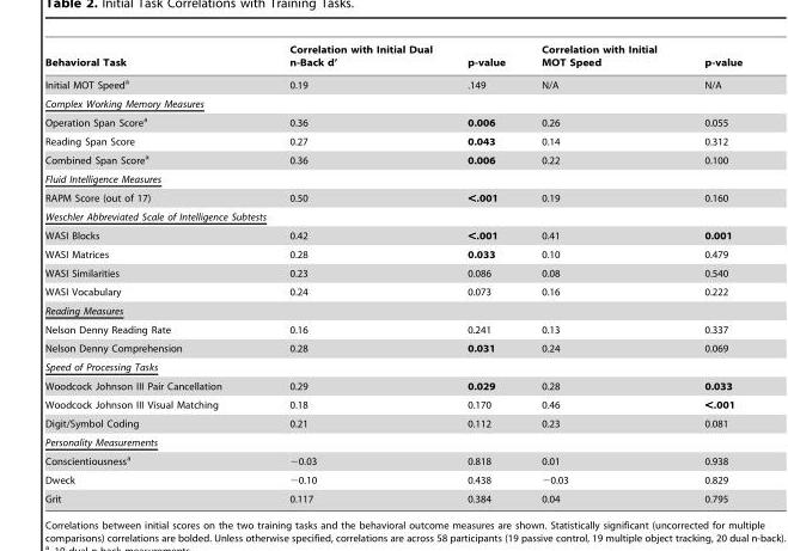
<table><thead><tr><td>Behavioral Task</td><td>Correlation with Initial Dual n-Back d’</td><td>p-value</td><td>Correlation with Initial MOT Speed</td><td>p-value</td></tr></thead><tbody><tr><td>Initial MOT Speed<sup>a</sup></td><td>0.19</td><td>.149</td><td>N/A</td><td>N/A</td></tr><tr><td colspan="5">Complex Working Memory Measures</td></tr><tr><td>Operation Span Score<sup>a</sup></td><td>0.36</td><td>0.006</td><td>0.26</td><td>0.055</td></tr><tr><td>Reading Span Score</td><td>0.27</td><td>0.043</td><td>0.14</td><td>0.312</td></tr><tr><td>Combined Span Score<sup>a</sup></td><td>0.36</td><td>0.006</td><td>0.22</td><td>0.100</td></tr><tr><td colspan="5">Fluid Intelligence Measures</td></tr><tr><td>RAPM Score (out of 17)</td><td>0.50</td><td>&lt;.001</td><td>0.19</td><td>0.160</td></tr><tr><td colspan="5">Weschler Abbreviated Scale of Intelligence Subtests</td></tr><tr><td>WASI Blocks</td><td>0.42</td><td>&lt;.001</td><td>0.41</td><td>0.001</td></tr><tr><td>WASI Matrices</td><td>0.28</td><td>0.033</td><td>0.10</td><td>0.479</td></tr><tr><td>WASI Similarities</td><td>0.23</td><td>0.086</td><td>0.08</td><td>0.540</td></tr><tr><td>WASI Vocabulary</td><td>0.24</td><td>0.073</td><td>0.16</td><td>0.222</td></tr><tr><td colspan="5">Reading Measures</td></tr><tr><td>Nelson Denny Reading Rate</td><td>0.16</td><td>0.241</td><td>0.13</td><td>0.337</td></tr><tr><td>Nelson Denny Comprehension</td><td>0.28</td><td>0.031</td><td>0.24</td><td>0.069</td></tr><tr><td colspan="5">Speed of Processing Tasks</td></tr><tr><td>Woodcock Johnson III Pair Cancellation</td><td>0.29</td><td>0.029</td><td>0.28</td><td>0.033</td></tr><tr><td>Woodcock Johnson III Visual Matching</td><td>0.18</td><td>0.170</td><td>0.46</td><td>&lt;.001</td></tr><tr><td>Digit/Symbol Coding</td><td>0.21</td><td>0.112</td><td>0.23</td><td>0.081</td></tr><tr><td colspan="5">Personality Measurements</td></tr><tr><td>Conscientiousness<sup>a</sup></td><td>−0.03</td><td>0.818</td><td>0.01</td><td>0.938</td></tr><tr><td>Dweck</td><td>−0.10</td><td>0.438</td><td>−0.03</td><td>0.829</td></tr><tr><td>Grit</td><td>0.117</td><td>0.384</td><td>0.04</td><td>0.795</td></tr></tbody></table>